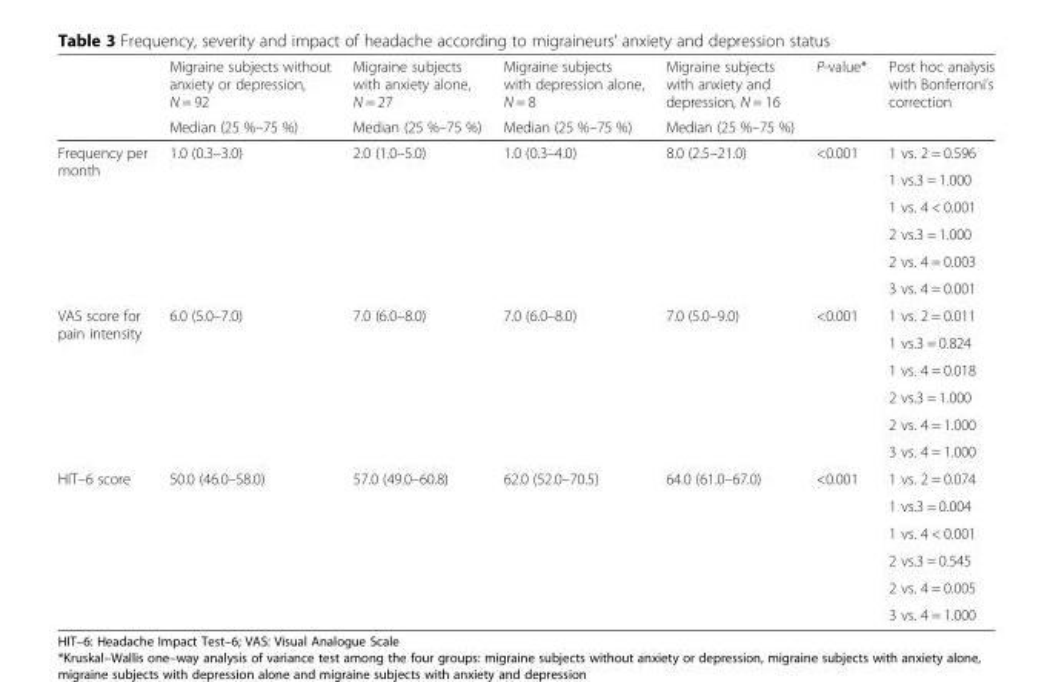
<table><thead><tr><td rowspan="2"></td><td rowspan="2">Migraine subjects without anxiety or depression, N = 92 Median (25 %–75 %)</td><td rowspan="2">Migraine subjects with anxiety alone, N = 27 Median (25 %–75 %)</td><td rowspan="2">Migraine subjects with depression alone, N = 8 Median (25 %–75 %)</td><td rowspan="2">Migraine subjects with anxiety and depression, N = 16 Median (25 %–75 %)</td><td rowspan="2">P-value*</td><td rowspan="2">Post hoc analysis with Bonferroni’s correction</td></tr><tr></tr></thead><tbody><tr><td rowspan="6">Frequency per month</td><td rowspan="6">1.0 (0.3–3.0)</td><td rowspan="6">2.0 (1.0–5.0)</td><td rowspan="6">1.0 (0.3–4.0)</td><td rowspan="6">8.0 (2.5–21.0)</td><td rowspan="6">&lt;0.001</td><td>1 vs. 2 = 0.596</td></tr><tr><td>1 vs.3 = 1.000</td></tr><tr><td>1 vs. 4 &lt; 0.001</td></tr><tr><td>2 vs.3 = 1.000</td></tr><tr><td>2 vs. 4 = 0.003</td></tr><tr><td>3 vs. 4 = 0.001</td></tr><tr><td rowspan="6">VAS score for pain intensity</td><td rowspan="6">6.0 (5.0–7.0)</td><td rowspan="6">7.0 (6.0–8.0)</td><td rowspan="6">7.0 (6.0–8.0)</td><td rowspan="6">7.0 (5.0–9.0)</td><td rowspan="6">&lt;0.001</td><td>1 vs. 2 = 0.011</td></tr><tr><td>1 vs.3 = 0.824</td></tr><tr><td>1 vs. 4 = 0.018</td></tr><tr><td>2 vs.3 = 1.000</td></tr><tr><td>2 vs. 4 = 1.000</td></tr><tr><td>3 vs. 4 = 1.000</td></tr><tr><td rowspan="6">HIT–6 score</td><td rowspan="6">50.0 (46.0–58.0)</td><td rowspan="6">57.0 (49.0–60.8)</td><td rowspan="6">62.0 (52.0–70.5)</td><td rowspan="6">64.0 (61.0–67.0)</td><td rowspan="6">&lt;0.001</td><td>1 vs. 2 = 0.074</td></tr><tr><td>1 vs.3 = 0.004</td></tr><tr><td>1 vs. 4 &lt; 0.001</td></tr><tr><td>2 vs.3 = 0.545</td></tr><tr><td>2 vs. 4 = 0.005</td></tr><tr><td>3 vs. 4 = 1.000</td></tr></tbody></table>